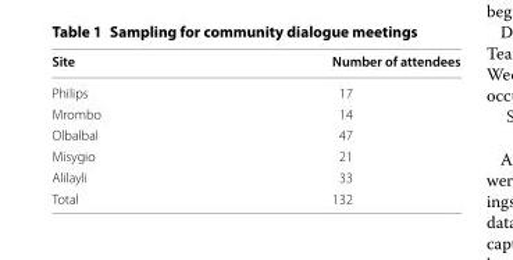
<table><thead><tr><td>Site</td><td>Number of attendees</td></tr></thead><tbody><tr><td>Philips</td><td>17</td></tr><tr><td>Mrombo</td><td>14</td></tr><tr><td>Olbalbal</td><td>47</td></tr><tr><td>Misygio</td><td>21</td></tr><tr><td>Alilayli</td><td>33</td></tr><tr><td>Total</td><td>132</td></tr></tbody></table>